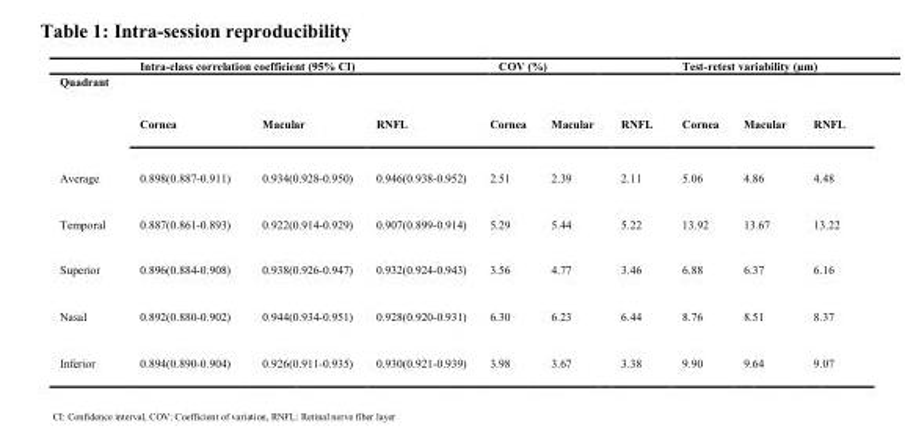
<table><thead><tr><td rowspan="2">Quadrant</td><td colspan="3">Intra-class correlation coefficient (95% CI)</td><td colspan="3">COV (%)</td><td colspan="3">Test-retest variability (µm)</td></tr><tr><td>Cornea</td><td>Macular</td><td>RNFL</td><td>Cornea</td><td>Macular</td><td>RNFL</td><td>Cornea</td><td>Macular</td><td>RNFL</td></tr></thead><tbody><tr><td>Average</td><td>0.898(0.887-0.911)</td><td>0.934(0.928-0.950)</td><td>0.946(0.938-0.952)</td><td>2.51</td><td>2.39</td><td>2.11</td><td>5.06</td><td>4.86</td><td>4.48</td></tr><tr><td>Temporal</td><td>0.887(0.861-0.893)</td><td>0.922(0.914-0.929)</td><td>0.907(0.899-0.914)</td><td>5.29</td><td>5.44</td><td>5.22</td><td>13.92</td><td>13.67</td><td>13.22</td></tr><tr><td>Superior</td><td>0.896(0.884-0.908)</td><td>0.938(0.926-0.947)</td><td>0.932(0.924-0.943)</td><td>3.56</td><td>4.77</td><td>3.46</td><td>6.88</td><td>6.37</td><td>6.16</td></tr><tr><td>Nasal</td><td>0.892(0.880-0.902)</td><td>0.944(0.934-0.951)</td><td>0.928(0.920-0.931)</td><td>6.30</td><td>6.23</td><td>6.44</td><td>8.76</td><td>8.51</td><td>8.37</td></tr><tr><td>Inferior</td><td>0.894(0.890-0.904)</td><td>0.926(0.911-0.935)</td><td>0.930(0.921-0.939)</td><td>3.98</td><td>3.67</td><td>3.38</td><td>9.90</td><td>9.64</td><td>9.07</td></tr></tbody></table>